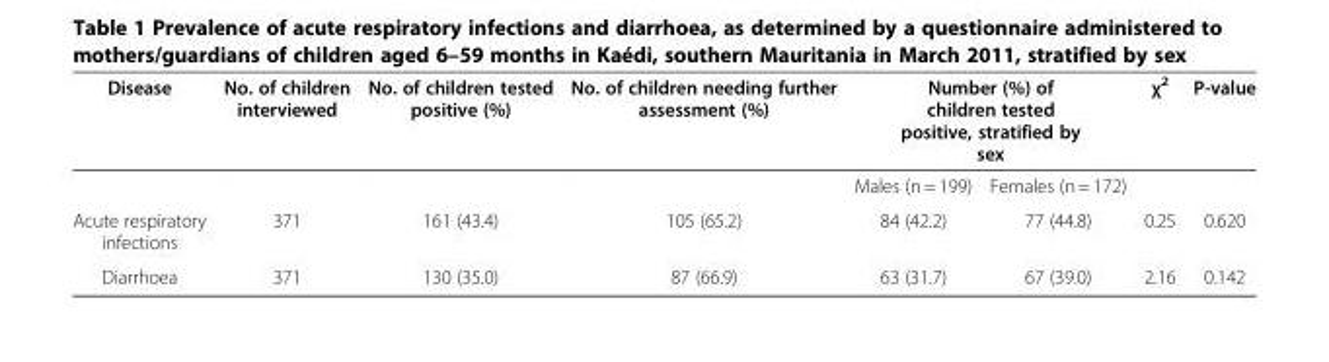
<table><thead><tr><td rowspan="2">Disease</td><td rowspan="2">No. of children interviewed</td><td rowspan="2">No. of children tested positive (%)</td><td rowspan="2">No. of children needing further assessment (%)</td><td colspan="2">Number (%) of children tested positive, stratified by sex</td><td rowspan="2">χ<sup>2</sup></td><td rowspan="2">P-value</td></tr><tr><td>Males (n = 199)</td><td>Females (n = 172)</td></tr></thead><tbody><tr><td>Acute respiratory infections</td><td>371</td><td>161 (43.4)</td><td>105 (65.2)</td><td>84 (42.2)</td><td>77 (44.8)</td><td>0.25</td><td>0.620</td></tr><tr><td>Diarrhoea</td><td>371</td><td>130 (35.0)</td><td>87 (66.9)</td><td>63 (31.7)</td><td>67 (39.0)</td><td>2.16</td><td>0.142</td></tr></tbody></table>